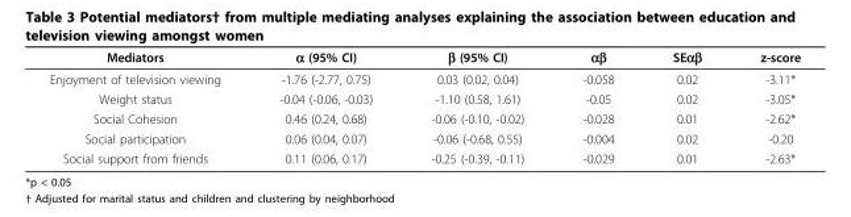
<table><thead><tr><td>Mediators</td><td>α (95% CI)</td><td>β (95% CI)</td><td>αβ</td><td>SEαβ</td><td>z-score</td></tr></thead><tbody><tr><td>Enjoyment of television viewing</td><td>-1.76 (-2.77, 0.75)</td><td>0.03 (0.02, 0.04)</td><td>-0.058</td><td>0.02</td><td>-3.11*</td></tr><tr><td>Weight status</td><td>-0.04 (-0.06, -0.03)</td><td>-1.10 (0.58, 1.61)</td><td>-0.05</td><td>0.02</td><td>-3.05*</td></tr><tr><td>Social Cohesion</td><td>0.46 (0.24, 0.68)</td><td>-0.06 (-0.10, -0.02)</td><td>-0.028</td><td>0.01</td><td>-2.62*</td></tr><tr><td>Social participation</td><td>0.06 (0.04, 0.07)</td><td>-0.06 (-0.68, 0.55)</td><td>-0.004</td><td>0.02</td><td>-0.20</td></tr><tr><td>Social support from friends</td><td>0.11 (0.06, 0.17)</td><td>-0.25 (-0.39, -0.11)</td><td>-0.029</td><td>0.01</td><td>-2.63*</td></tr></tbody></table>